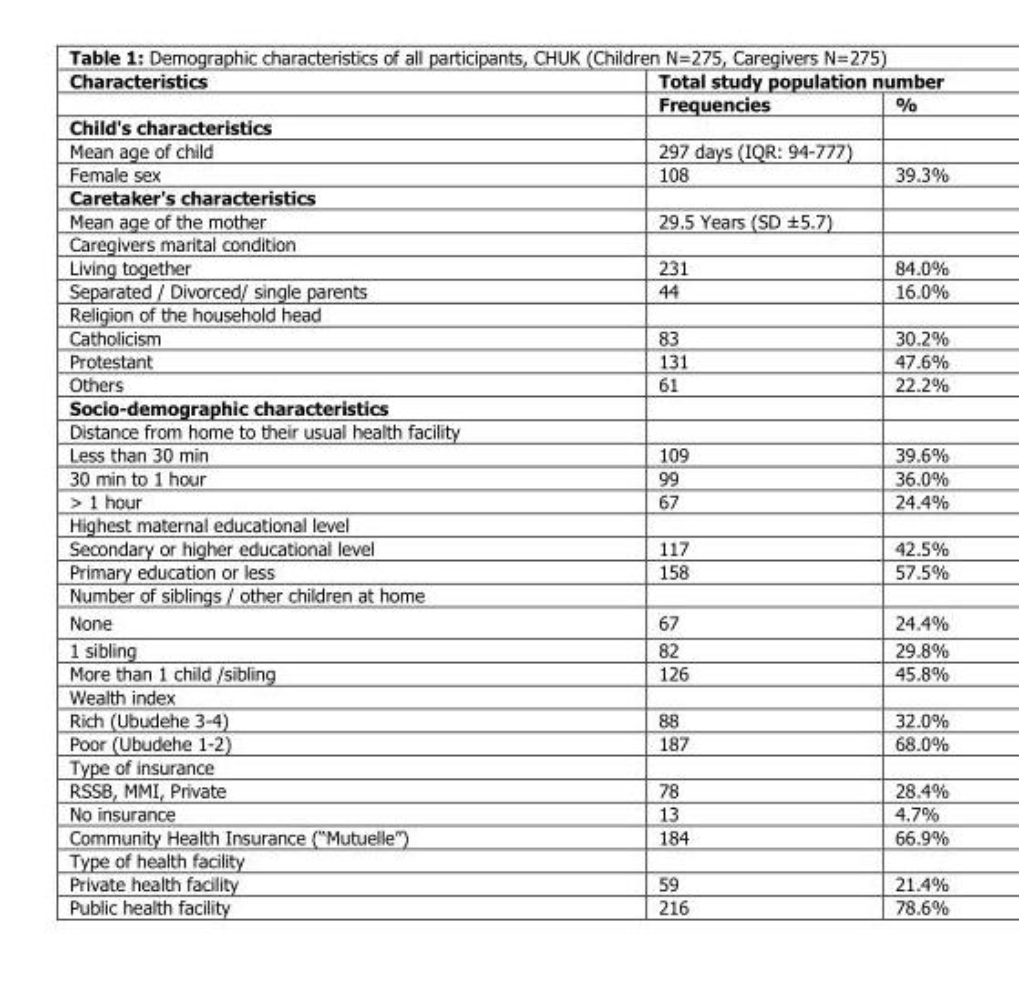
<table><thead><tr><td rowspan="2">Characteristics</td><td colspan="2">Total study population number</td></tr><tr><td>Frequencies</td><td>%</td></tr></thead><tbody><tr><td colspan="3">Child&#x27;s characteristics</td></tr><tr><td>Mean age of child</td><td>297 days (IQR: 94-777)</td><td></td></tr><tr><td>Female sex</td><td>108</td><td>39.3%</td></tr><tr><td colspan="3">Caretaker&#x27;s characteristics</td></tr><tr><td>Mean age of the mother</td><td>29.5 Years (SD ±5.7)</td><td></td></tr><tr><td colspan="3">Caregivers marital condition</td></tr><tr><td>Living together</td><td>231</td><td>84.0%</td></tr><tr><td>Separated / Divorced/ single parents</td><td>44</td><td>16.0%</td></tr><tr><td colspan="3">Religion of the household head</td></tr><tr><td>Catholicism</td><td>83</td><td>30.2%</td></tr><tr><td>Protestant</td><td>131</td><td>47.6%</td></tr><tr><td>Others</td><td>61</td><td>22.2%</td></tr><tr><td colspan="3">Socio-demographic characteristics</td></tr><tr><td colspan="3">Distance from home to their usual health facility</td></tr><tr><td>Less than 30 min</td><td>109</td><td>39.6%</td></tr><tr><td>30 min to 1 hour</td><td>99</td><td>36.0%</td></tr><tr><td>&gt; 1 hour</td><td>67</td><td>24.4%</td></tr><tr><td colspan="3">Highest maternal educational level</td></tr><tr><td>Secondary or higher educational level</td><td>117</td><td>42.5%</td></tr><tr><td>Primary education or less</td><td>158</td><td>57.5%</td></tr><tr><td colspan="3">Number of siblings / other children at home</td></tr><tr><td>None</td><td>67</td><td>24.4%</td></tr><tr><td>1 sibling</td><td>82</td><td>29.8%</td></tr><tr><td>More than 1 child /sibling</td><td>126</td><td>45.8%</td></tr><tr><td colspan="3">Wealth index</td></tr><tr><td>Rich (Ubudehe 3-4)</td><td>88</td><td>32.0%</td></tr><tr><td>Poor (Ubudehe 1-2)</td><td>187</td><td>68.0%</td></tr><tr><td colspan="3">Type of insurance</td></tr><tr><td>RSSB, MMI, Private</td><td>78</td><td>28.4%</td></tr><tr><td>No insurance</td><td>13</td><td>4.7%</td></tr><tr><td>Community Health Insurance (“Mutuelle”)</td><td>184</td><td>66.9%</td></tr><tr><td colspan="3">Type of health facility</td></tr><tr><td>Private health facility</td><td>59</td><td>21.4%</td></tr><tr><td>Public health facility</td><td>216</td><td>78.6%</td></tr></tbody></table>